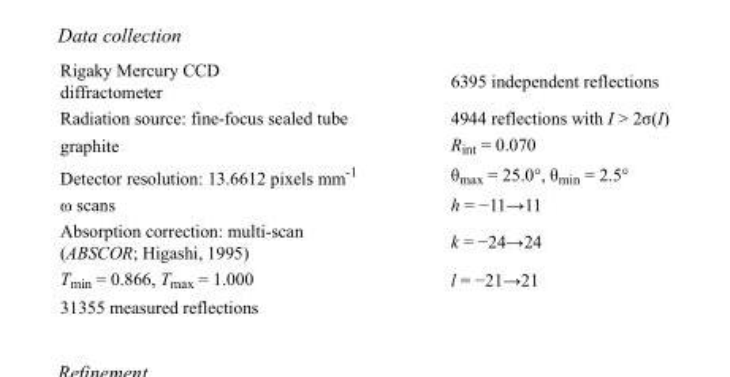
<table><tbody><tr><td>Rigaky Mercury CCD diffractometer</td><td>6395 independent reflections</td></tr><tr><td>Radiation source: fine-focus sealed tube</td><td>4944 reflections with I &gt; 2σ(I)</td></tr><tr><td>graphite</td><td>R<sub>int</sub> = 0.070</td></tr><tr><td>Detector resolution: 13.6612 pixels mm<sup>-1</sup></td><td>θ<sub>max</sub> = 25.0°, θ<sub>min</sub> = 2.5°</td></tr><tr><td>ω scans</td><td>h = −11→11</td></tr><tr><td>Absorption correction: multi-scan (ABSCOR; Higashi, 1995)</td><td>k = −24→24</td></tr><tr><td>T<sub>min</sub> = 0.866, T<sub>max</sub> = 1.000</td><td>l = −21→21</td></tr><tr><td>31355 measured reflections</td><td></td></tr></tbody></table>